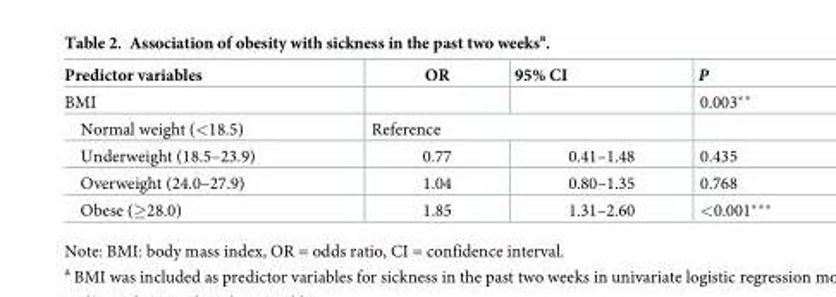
<table><thead><tr><td>Predictor variables</td><td>OR</td><td>95% CI</td><td>P</td></tr></thead><tbody><tr><td>BMI</td><td></td><td></td><td>0.003**</td></tr><tr><td>Normal weight (&lt;18.5)</td><td colspan="2">Reference</td><td></td></tr><tr><td>Underweight (18.5–23.9)</td><td>0.77</td><td>0.41–1.48</td><td>0.435</td></tr><tr><td>Overweight (24.0–27.9)</td><td>1.04</td><td>0.80–1.35</td><td>0.768</td></tr><tr><td>Obese (≥28.0)</td><td>1.85</td><td>1.31–2.60</td><td>&lt;0.001***</td></tr></tbody></table>